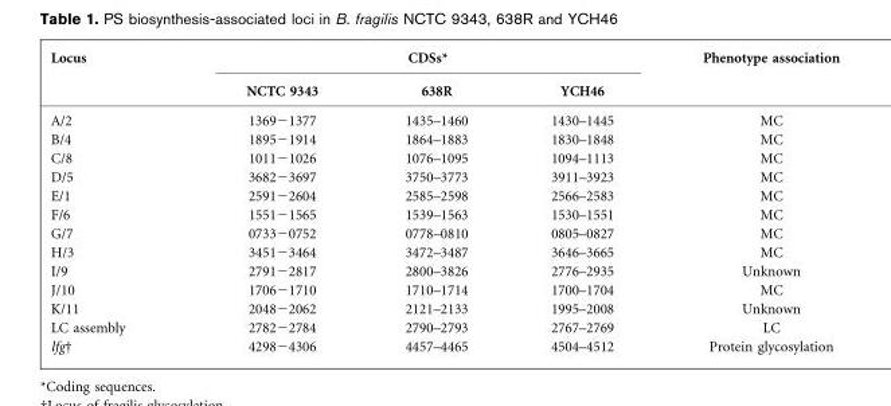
<table><thead><tr><td rowspan="2">Locus</td><td colspan="3">CDSs*</td><td rowspan="2">Phenotype association</td></tr><tr><td>NCTC 9343</td><td>638R</td><td>YCH46</td></tr></thead><tbody><tr><td>A/2</td><td>1369−1377</td><td>1435–1460</td><td>1430–1445</td><td>MC</td></tr><tr><td>B/4</td><td>1895−1914</td><td>1864–1883</td><td>1830–1848</td><td>MC</td></tr><tr><td>C/8</td><td>1011−1026</td><td>1076–1095</td><td>1094–1113</td><td>MC</td></tr><tr><td>D/5</td><td>3682−3697</td><td>3750–3773</td><td>3911–3923</td><td>MC</td></tr><tr><td>E/1</td><td>2591−2604</td><td>2585–2598</td><td>2566–2583</td><td>MC</td></tr><tr><td>F/6</td><td>1551−1565</td><td>1539–1563</td><td>1530–1551</td><td>MC</td></tr><tr><td>G/7</td><td>0733−0752</td><td>0778–0810</td><td>0805–0827</td><td>MC</td></tr><tr><td>H/3</td><td>3451−3464</td><td>3472–3487</td><td>3646–3665</td><td>MC</td></tr><tr><td>I/9</td><td>2791−2817</td><td>2800–3826</td><td>2776–2935</td><td>Unknown</td></tr><tr><td>J/10</td><td>1706−1710</td><td>1710–1714</td><td>1700–1704</td><td>MC</td></tr><tr><td>K/11</td><td>2048−2062</td><td>2121–2133</td><td>1995–2008</td><td>Unknown</td></tr><tr><td>LC assembly</td><td>2782−2784</td><td>2790–2793</td><td>2767–2769</td><td>LC</td></tr><tr><td>lfg†</td><td>4298−4306</td><td>4457–4465</td><td>4504–4512</td><td>Protein glycosylation</td></tr></tbody></table>